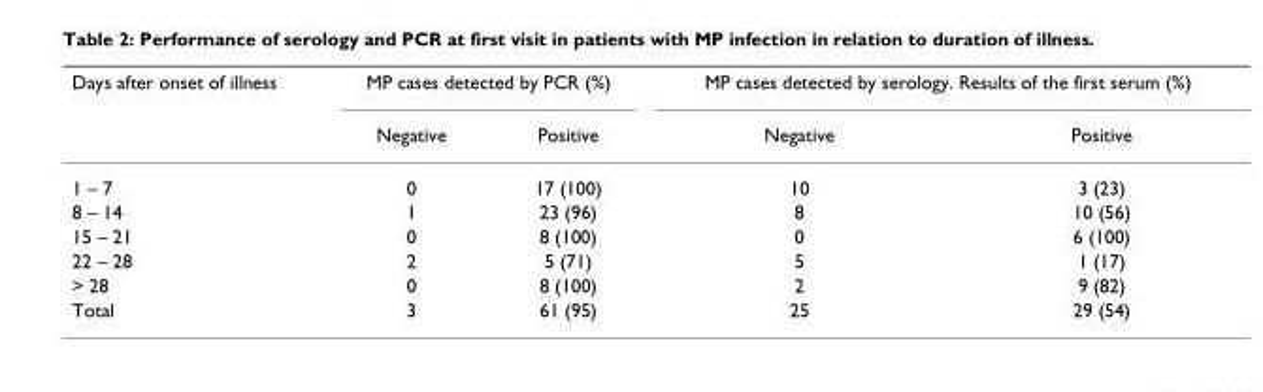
<table><thead><tr><td rowspan="2">Days after onset of illness</td><td colspan="2">MP cases detected by PCR (%)</td><td colspan="2">MP cases detected by serology. Results of the first serum (%)</td></tr><tr><td>Negative</td><td>Positive</td><td>Negative</td><td>Positive</td></tr></thead><tbody><tr><td>1 – 7</td><td>0</td><td>17 (100)</td><td>10</td><td>3 (23)</td></tr><tr><td>8 – 14</td><td>1</td><td>23 (96)</td><td>8</td><td>10 (56)</td></tr><tr><td>15 – 21</td><td>0</td><td>8 (100)</td><td>0</td><td>6 (100)</td></tr><tr><td>22 – 28</td><td>2</td><td>5 (71)</td><td>5</td><td>1 (17)</td></tr><tr><td>&gt; 28</td><td>0</td><td>8 (100)</td><td>2</td><td>9 (82)</td></tr><tr><td>Total</td><td>3</td><td>61 (95)</td><td>25</td><td>29 (54)</td></tr></tbody></table>